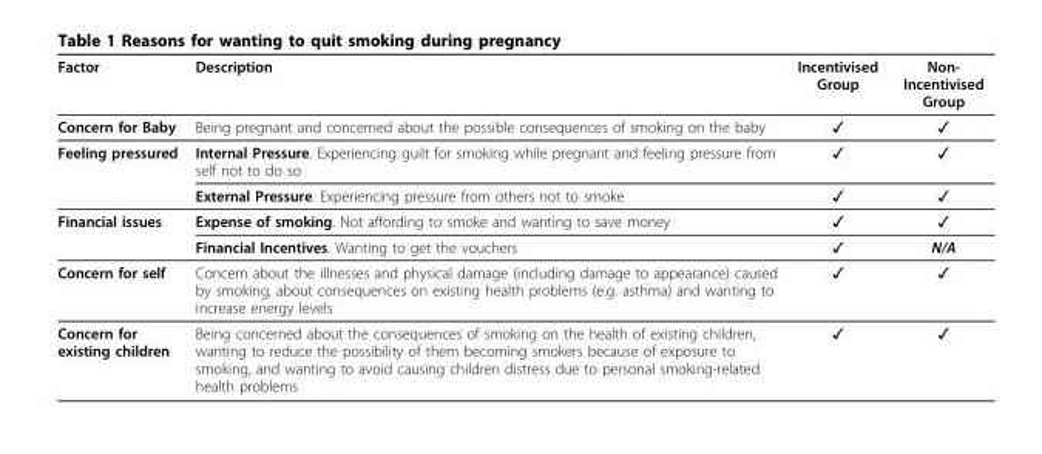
<table><thead><tr><td>Factor</td><td>Description</td><td>Incentivised Group</td><td>Non- Incentivised Group</td></tr></thead><tbody><tr><td>Concern for Baby</td><td>Being pregnant and concerned about the possible consequences of smoking on the baby</td><td>✓</td><td>✓</td></tr><tr><td rowspan="2">Feeling pressured</td><td>Internal Pressure. Experiencing guilt for smoking while pregnant and feeling pressure from self not to do so</td><td>✓</td><td>✓</td></tr><tr><td>External Pressure. Experiencing pressure from others not to smoke</td><td>✓</td><td>✓</td></tr><tr><td rowspan="2">Financial issues</td><td>Expense of smoking. Not affording to smoke and wanting to save money</td><td>✓</td><td>✓</td></tr><tr><td>Financial Incentives. Wanting to get the vouchers</td><td>✓</td><td>N/A</td></tr><tr><td>Concern for self</td><td>Concern about the illnesses and physical damage (including damage to appearance) caused by smoking, about consequences on existing health problems (e.g. asthma) and wanting to increase energy levels</td><td>✓</td><td>✓</td></tr><tr><td>Concern for existing children</td><td>Being concerned about the consequences of smoking on the health of existing children, wanting to reduce the possibility of them becoming smokers because of exposure to smoking, and wanting to avoid causing children distress due to personal smoking-related health problems</td><td>✓</td><td>✓</td></tr></tbody></table>